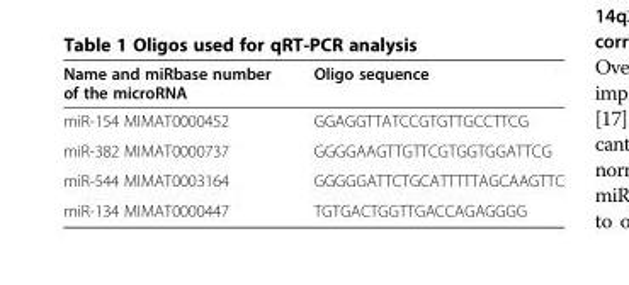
<table><thead><tr><td>Name and miRbase number of the microRNA</td><td>Oligo sequence</td></tr></thead><tbody><tr><td>miR-154 MIMAT0000452</td><td>GGAGGTTATCCGTGTTGCCTTCG</td></tr><tr><td>miR-382 MIMAT0000737</td><td>GGGGAAGTTGTTCGTGGTGGATTCG</td></tr><tr><td>miR-544 MIMAT0003164</td><td>GGGGGATTCTGCATTTTTAGCAAGTTC</td></tr><tr><td>miR-134 MIMAT0000447</td><td>TGTGACTGGTTGACCAGAGGGG</td></tr></tbody></table>